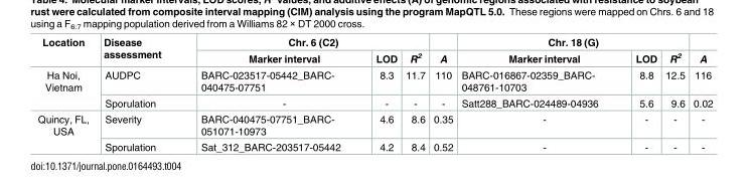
<table><thead><tr><td rowspan="2">Location</td><td rowspan="2">Disease assessment</td><td colspan="3">Chr. 6 (C2)</td><td rowspan="2">A</td><td colspan="3">Chr. 18 (G)</td><td rowspan="2">A</td></tr><tr><td>Marker interval</td><td>LOD</td><td>R<sup>2</sup></td><td>Marker interval</td><td>LOD</td><td>R<sup>2</sup></td></tr></thead><tbody><tr><td rowspan="2">Ha Noi, Vietnam</td><td>AUDPC</td><td>BARC-023517-05442_BARC- 040475-07751</td><td>8.3</td><td>11.7</td><td>110</td><td>BARC-016867-02359_BARC- 048761-10703</td><td>8.8</td><td>12.5</td><td>116</td></tr><tr><td>Sporulation</td><td>-</td><td>-</td><td>-</td><td>-</td><td>Satt288_BARC-024489-04936</td><td>5.6</td><td>9.6</td><td>0.02</td></tr><tr><td rowspan="2">Quincy, FL, USA</td><td>Severity</td><td>BARC-040475-07751_BARC- 051071-10973</td><td>4.6</td><td>8.6</td><td>0.35</td><td>-</td><td>-</td><td>-</td><td>-</td></tr><tr><td>Sporulation</td><td>Sat_312_BARC-203517-05442</td><td>4.2</td><td>8.4</td><td>0.52</td><td>-</td><td>-</td><td>-</td><td>-</td></tr></tbody></table>